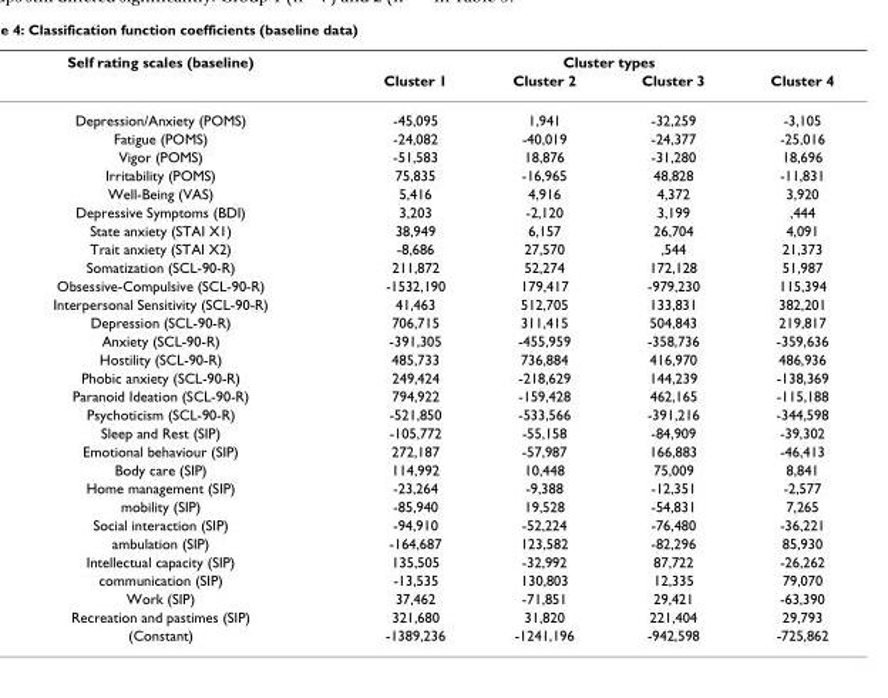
<table><thead><tr><td rowspan="2">Self rating scales (baseline)</td><td colspan="4">Cluster types</td></tr><tr><td>Cluster 1</td><td>Cluster 2</td><td>Cluster 3</td><td>Cluster 4</td></tr></thead><tbody><tr><td>Depression/Anxiety (POMS)</td><td>-45,095</td><td>1,941</td><td>-32,259</td><td>-3,105</td></tr><tr><td>Fatigue (POMS)</td><td>-24,082</td><td>-40,019</td><td>-24,377</td><td>-25,016</td></tr><tr><td>Vigor (POMS)</td><td>-51,583</td><td>18,876</td><td>-31,280</td><td>18,696</td></tr><tr><td>Irritability (POMS)</td><td>75,835</td><td>-16,965</td><td>48,828</td><td>-11,831</td></tr><tr><td>Well-Being (VAS)</td><td>5,416</td><td>4,916</td><td>4,372</td><td>3,920</td></tr><tr><td>Depressive Symptoms (BDI)</td><td>3,203</td><td>-2,120</td><td>3,199</td><td>,444</td></tr><tr><td>State anxiety (STAI X1)</td><td>38,949</td><td>6,157</td><td>26,704</td><td>4,091</td></tr><tr><td>Trait anxiety (STAI X2)</td><td>-8,686</td><td>27,570</td><td>,544</td><td>21,373</td></tr><tr><td>Somatization (SCL-90-R)</td><td>211,872</td><td>52,274</td><td>172,128</td><td>51,987</td></tr><tr><td>Obsessive-Compulsive (SCL-90-R)</td><td>-1532,190</td><td>179,417</td><td>-979,230</td><td>115,394</td></tr><tr><td>Interpersonal Sensitivity (SCL-90-R)</td><td>41,463</td><td>512,705</td><td>133,831</td><td>382,201</td></tr><tr><td>Depression (SCL-90-R)</td><td>706,715</td><td>311,415</td><td>504,843</td><td>219,817</td></tr><tr><td>Anxiety (SCL-90-R)</td><td>-391,305</td><td>-455,959</td><td>-358,736</td><td>-359,636</td></tr><tr><td>Hostility (SCL-90-R)</td><td>485,733</td><td>736,884</td><td>416,970</td><td>486,936</td></tr><tr><td>Phobic anxiety (SCL-90-R)</td><td>249,424</td><td>-218,629</td><td>144,239</td><td>-138,369</td></tr><tr><td>Paranoid Ideation (SCL-90-R)</td><td>794,922</td><td>-159,428</td><td>462,165</td><td>-115,188</td></tr><tr><td>Psychoticism (SCL-90-R)</td><td>-521,850</td><td>-533,566</td><td>-391,216</td><td>-344,598</td></tr><tr><td>Sleep and Rest (SIP)</td><td>-105,772</td><td>-55,158</td><td>-84,909</td><td>-39,302</td></tr><tr><td>Emotional behaviour (SIP)</td><td>272,187</td><td>-57,987</td><td>166,883</td><td>-46,413</td></tr><tr><td>Body care (SIP)</td><td>114,992</td><td>10,448</td><td>75,009</td><td>8,841</td></tr><tr><td>Home management (SIP)</td><td>-23,264</td><td>-9,388</td><td>-12,351</td><td>-2,577</td></tr><tr><td>mobility (SIP)</td><td>-85,940</td><td>19,528</td><td>-54,831</td><td>7,265</td></tr><tr><td>Social interaction (SIP)</td><td>-94,910</td><td>-52,224</td><td>-76,480</td><td>-36,221</td></tr><tr><td>ambulation (SIP)</td><td>-164,687</td><td>123,582</td><td>-82,296</td><td>85,930</td></tr><tr><td>Intellectual capacity (SIP)</td><td>135,505</td><td>-32,992</td><td>87,722</td><td>-26,262</td></tr><tr><td>communication (SIP)</td><td>-13,535</td><td>130,803</td><td>12,335</td><td>79,070</td></tr><tr><td>Work (SIP)</td><td>37,462</td><td>-71,851</td><td>29,421</td><td>-63,390</td></tr><tr><td>Recreation and pastimes (SIP)</td><td>321,680</td><td>31,820</td><td>221,404</td><td>29,793</td></tr><tr><td>(Constant)</td><td>-1389,236</td><td>-1241,196</td><td>-942,598</td><td>-725,862</td></tr></tbody></table>